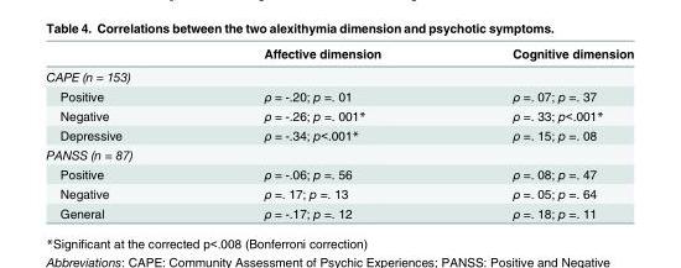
<table><thead><tr><td></td><td>Affective dimension</td><td>Cognitive dimension</td></tr></thead><tbody><tr><td colspan="3">CAPE (n = 153)</td></tr><tr><td>Positive</td><td>ρ = -.20; p =. 01</td><td>ρ =. 07; p =. 37</td></tr><tr><td>Negative</td><td>ρ = -.26; p =. 001*</td><td>ρ =. 33; p&lt;.001*</td></tr><tr><td>Depressive</td><td>ρ = -.34; p&lt;.001*</td><td>ρ =. 15; p =. 08</td></tr><tr><td colspan="3">PANSS (n = 87)</td></tr><tr><td>Positive</td><td>ρ = -.06; p =. 56</td><td>ρ =. 08; p =. 47</td></tr><tr><td>Negative</td><td>ρ =. 17; p =. 13</td><td>ρ =. 05; p =. 64</td></tr><tr><td>General</td><td>ρ = -.17; p =. 12</td><td>ρ =. 18; p =. 11</td></tr></tbody></table>